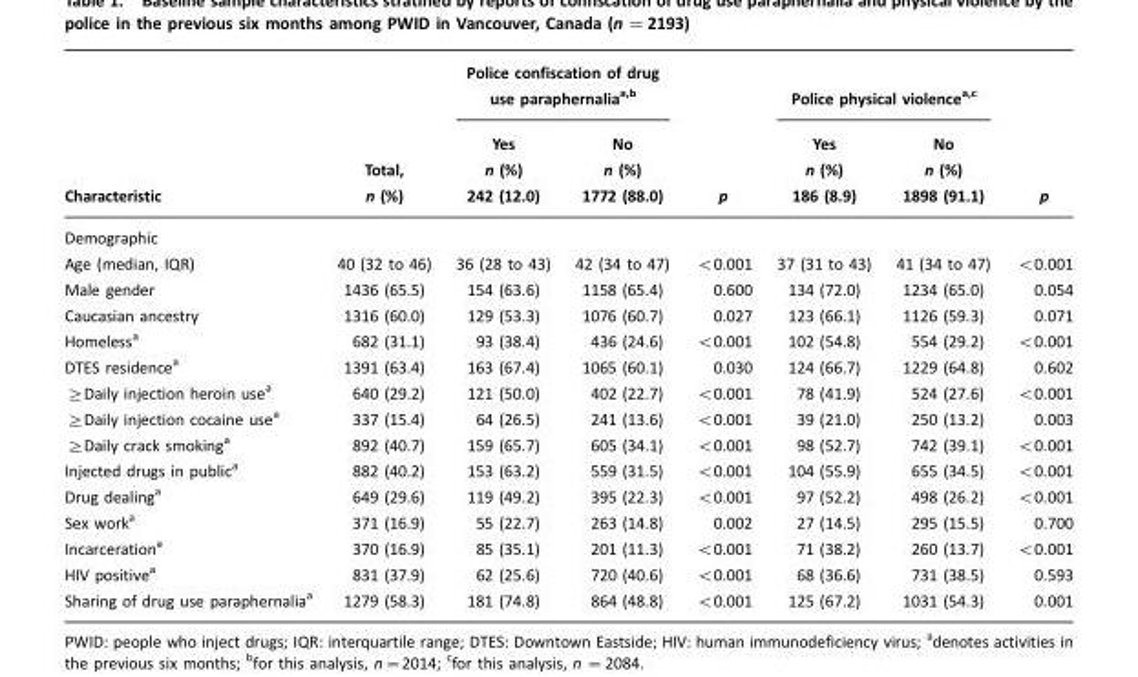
<table><thead><tr><td rowspan="2">Characteristic</td><td rowspan="2">Total, n (%)</td><td colspan="2">Police confiscation of drug use paraphernalia<sup>a</sup>,<sup>b</sup></td><td rowspan="2">p</td><td colspan="2">Police physical violence<sup>a</sup>,<sup>c</sup></td><td rowspan="2">p</td></tr><tr><td>Yes n (%) 242 (12.0)</td><td>No n (%) 1772 (88.0)</td><td>Yes n (%) 186 (8.9)</td><td>No n (%) 1898 (91.1)</td></tr></thead><tbody><tr><td colspan="8">Demographic</td></tr><tr><td>Age (median, IQR)</td><td>40 (32 to 46)</td><td>36 (28 to 43)</td><td>42 (34 to 47)</td><td>&lt;0.001</td><td>37 (31 to 43)</td><td>41 (34 to 47)</td><td>&lt;0.001</td></tr><tr><td>Male gender</td><td>1436 (65.5)</td><td>154 (63.6)</td><td>1158 (65.4)</td><td>0.600</td><td>134 (72.0)</td><td>1234 (65.0)</td><td>0.054</td></tr><tr><td>Caucasian ancestry</td><td>1316 (60.0)</td><td>129 (53.3)</td><td>1076 (60.7)</td><td>0.027</td><td>123 (66.1)</td><td>1126 (59.3)</td><td>0.071</td></tr><tr><td>Homeless<sup>a</sup></td><td>682 (31.1)</td><td>93 (38.4)</td><td>436 (24.6)</td><td>&lt;0.001</td><td>102 (54.8)</td><td>554 (29.2)</td><td>&lt;0.001</td></tr><tr><td>DTES residence<sup>a</sup></td><td>1391 (63.4)</td><td>163 (67.4)</td><td>1065 (60.1)</td><td>0.030</td><td>124 (66.7)</td><td>1229 (64.8)</td><td>0.602</td></tr><tr><td>≥Daily injection heroin use<sup>a</sup></td><td>640 (29.2)</td><td>121 (50.0)</td><td>402 (22.7)</td><td>&lt;0.001</td><td>78 (41.9)</td><td>524 (27.6)</td><td>&lt;0.001</td></tr><tr><td>≥Daily injection cocaine use<sup>a</sup></td><td>337 (15.4)</td><td>64 (26.5)</td><td>241 (13.6)</td><td>&lt;0.001</td><td>39 (21.0)</td><td>250 (13.2)</td><td>0.003</td></tr><tr><td>≥Daily crack smoking<sup>a</sup></td><td>892 (40.7)</td><td>159 (65.7)</td><td>605 (34.1)</td><td>&lt;0.001</td><td>98 (52.7)</td><td>742 (39.1)</td><td>&lt;0.001</td></tr><tr><td>Injected drugs in public<sup>a</sup></td><td>882 (40.2)</td><td>153 (63.2)</td><td>559 (31.5)</td><td>&lt;0.001</td><td>104 (55.9)</td><td>655 (34.5)</td><td>&lt;0.001</td></tr><tr><td>Drug dealing<sup>a</sup></td><td>649 (29.6)</td><td>119 (49.2)</td><td>395 (22.3)</td><td>&lt;0.001</td><td>97 (52.2)</td><td>498 (26.2)</td><td>&lt;0.001</td></tr><tr><td>Sex work<sup>a</sup></td><td>371 (16.9)</td><td>55 (22.7)</td><td>263 (14.8)</td><td>0.002</td><td>27 (14.5)</td><td>295 (15.5)</td><td>0.700</td></tr><tr><td>Incarceration<sup>a</sup></td><td>370 (16.9)</td><td>85 (35.1)</td><td>201 (11.3)</td><td>&lt;0.001</td><td>71 (38.2)</td><td>260 (13.7)</td><td>&lt;0.001</td></tr><tr><td>HIV positive<sup>a</sup></td><td>831 (37.9)</td><td>62 (25.6)</td><td>720 (40.6)</td><td>&lt;0.001</td><td>68 (36.6)</td><td>731 (38.5)</td><td>0.593</td></tr><tr><td>Sharing of drug use paraphernalia<sup>a</sup></td><td>1279 (58.3)</td><td>181 (74.8)</td><td>864 (48.8)</td><td>&lt;0.001</td><td>125 (67.2)</td><td>1031 (54.3)</td><td>0.001</td></tr></tbody></table>